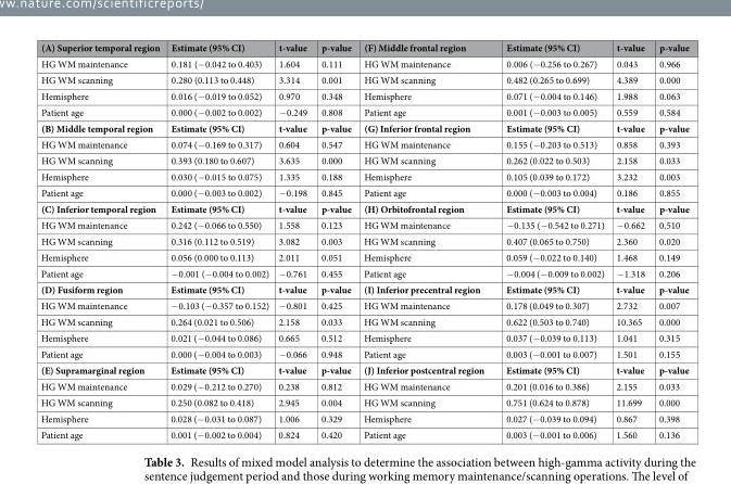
<table><thead><tr><td>(A) Superior temporal region</td><td>Estimate (95% CI)</td><td>t-value</td><td>p-value</td><td>(F) Middle frontal region</td><td>Estimate (95% CI)</td><td>t-value</td><td>p-value</td></tr></thead><tbody><tr><td>HG WM maintenance</td><td>0.181 (−0.042 to 0.403)</td><td>1.604</td><td>0.111</td><td>HG WM maintenance</td><td>0.006 (−0.256 to 0.267)</td><td>0.043</td><td>0.966</td></tr><tr><td>HG WM scanning</td><td>0.280 (0.113 to 0.448)</td><td>3.314</td><td>0.001</td><td>HG WM scanning</td><td>0.482 (0.265 to 0.699)</td><td>4.389</td><td>0.000</td></tr><tr><td>Hemisphere</td><td>0.016 (−0.019 to 0.052)</td><td>0.970</td><td>0.348</td><td>Hemisphere</td><td>0.071 (−0.004 to 0.146)</td><td>1.988</td><td>0.063</td></tr><tr><td>Patient age</td><td>0.000 (−0.002 to 0.002)</td><td>−0.249</td><td>0.808</td><td>Patient age</td><td>0.001 (−0.003 to 0.005)</td><td>0.559</td><td>0.584</td></tr><tr><td>(B) Middle temporal region</td><td>Estimate (95% CI)</td><td>t-value</td><td>p-value</td><td>(G) Inferior frontal region</td><td>Estimate (95% CI)</td><td>t-value</td><td>p-value</td></tr><tr><td>HG WM maintenance</td><td>0.074 (−0.169 to 0.317)</td><td>0.604</td><td>0.547</td><td>HG WM maintenance</td><td>0.155 (−0.203 to 0.513)</td><td>0.858</td><td>0.393</td></tr><tr><td>HG WM scanning</td><td>0.393 (0.180 to 0.607)</td><td>3.635</td><td>0.000</td><td>HG WM scanning</td><td>0.262 (0.022 to 0.503)</td><td>2.158</td><td>0.033</td></tr><tr><td>Hemisphere</td><td>0.030 (−0.015 to 0.075)</td><td>1.335</td><td>0.188</td><td>Hemisphere</td><td>0.105 (0.039 to 0.172)</td><td>3.232</td><td>0.003</td></tr><tr><td>Patient age</td><td>0.000 (−0.003 to 0.002)</td><td>−0.198</td><td>0.845</td><td>Patient age</td><td>0.000 (−0.003 to 0.004)</td><td>0.186</td><td>0.855</td></tr><tr><td>(C) Inferior temporal region</td><td>Estimate (95% CI)</td><td>t-value</td><td>p-value</td><td>(H) Orbitofrontal region</td><td>Estimate (95% CI)</td><td>t-value</td><td>p-value</td></tr><tr><td>HG WM maintenance</td><td>0.242 (−0.066 to 0.550)</td><td>1.558</td><td>0.123</td><td>HG WM maintenance</td><td>−0.135 (−0.542 to 0.271)</td><td>−0.662</td><td>0.510</td></tr><tr><td>HG WM scanning</td><td>0.316 (0.112 to 0.519)</td><td>3.082</td><td>0.003</td><td>HG WM scanning</td><td>0.407 (0.065 to 0.750)</td><td>2.360</td><td>0.020</td></tr><tr><td>Hemisphere</td><td>0.056 (0.000 to 0.113)</td><td>2.011</td><td>0.051</td><td>Hemisphere</td><td>0.059 (−0.022 to 0.140)</td><td>1.468</td><td>0.149</td></tr><tr><td>Patient age</td><td>−0.001 (−0.004 to 0.002)</td><td>−0.761</td><td>0.455</td><td>Patient age</td><td>−0.004 (−0.009 to 0.002)</td><td>−1.318</td><td>0.206</td></tr><tr><td>(D) Fusiform region</td><td>Estimate (95% CI)</td><td>t-value</td><td>p-value</td><td>(I) Inferior precentral region</td><td>Estimate (95% CI)</td><td>t-value</td><td>p-value</td></tr><tr><td>HG WM maintenance</td><td>−0.103 (−0.357 to 0.152)</td><td>−0.801</td><td>0.425</td><td>HG WM maintenance</td><td>0.178 (0.049 to 0.307)</td><td>2.732</td><td>0.007</td></tr><tr><td>HG WM scanning</td><td>0.264 (0.021 to 0.506)</td><td>2.158</td><td>0.033</td><td>HG WM scanning</td><td>0.622 (0.503 to 0.740)</td><td>10.365</td><td>0.000</td></tr><tr><td>Hemisphere</td><td>0.021 (−0.044 to 0.086)</td><td>0.665</td><td>0.512</td><td>Hemisphere</td><td>0.037 (−0.039 to 0.113)</td><td>1.041</td><td>0.315</td></tr><tr><td>Patient age</td><td>0.000 (−0.004 to 0.003)</td><td>−0.066</td><td>0.948</td><td>Patient age</td><td>0.003 (−0.001 to 0.007)</td><td>1.501</td><td>0.155</td></tr><tr><td>(E) Supramarginal region</td><td>Estimate (95% CI)</td><td>t-value</td><td>p-value</td><td>(J) Inferior postcentral region</td><td>Estimate (95% CI)</td><td>t-value</td><td>p-value</td></tr><tr><td>HG WM maintenance</td><td>0.029 (−0.212 to 0.270)</td><td>0.238</td><td>0.812</td><td>HG WM maintenance</td><td>0.201 (0.016 to 0.386)</td><td>2.155</td><td>0.033</td></tr><tr><td>HG WM scanning</td><td>0.250 (0.082 to 0.418)</td><td>2.945</td><td>0.004</td><td>HG WM scanning</td><td>0.751 (0.624 to 0.878)</td><td>11.699</td><td>0.000</td></tr><tr><td>Hemisphere</td><td>0.028 (−0.031 to 0.087)</td><td>1.006</td><td>0.329</td><td>Hemisphere</td><td>0.027 (−0.039 to 0.094)</td><td>0.867</td><td>0.398</td></tr><tr><td>Patient age</td><td>0.001 (−0.002 to 0.004)</td><td>0.824</td><td>0.420</td><td>Patient age</td><td>0.003 (−0.001 to 0.006)</td><td>1.560</td><td>0.136</td></tr></tbody></table>